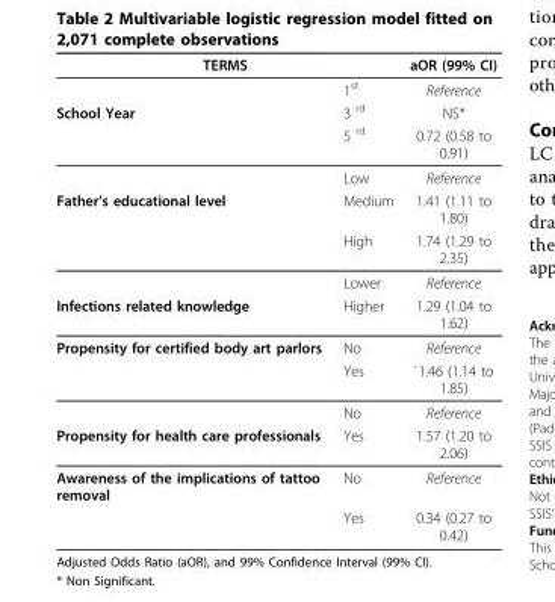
<table><thead><tr><td colspan="2">TERMS</td><td rowspan="2">aOR (99% CI) Reference</td></tr><tr><td></td><td>1<sup>st</sup></td></tr></thead><tbody><tr><td rowspan="3">School Year</td><td>3 <sup>rd</sup></td><td>NS*</td></tr><tr><td>5 <sup>rd</sup></td><td>0.72 (0.58 to 0.91)</td></tr><tr><td>Low</td><td>Reference</td></tr><tr><td rowspan="3">Father’s educational level</td><td>Medium</td><td>1.41 (1.11 to 1.80)</td></tr><tr><td>High</td><td>1.74 (1.29 to 2.35)</td></tr><tr><td>Lower</td><td>Reference</td></tr><tr><td>Infections related knowledge</td><td>Higher</td><td>1.29 (1.04 to 1.62)</td></tr><tr><td rowspan="3">Propensity for certified body art parlors</td><td>No</td><td>Reference</td></tr><tr><td>Yes</td><td>`1.46 (1.14 to 1.85)</td></tr><tr><td>No</td><td>Reference</td></tr><tr><td>Propensity for health care professionals</td><td>Yes</td><td>1.57 (1.20 to 2.06)</td></tr><tr><td rowspan="2">Awareness of the implications of tattoo removal</td><td>No</td><td>Reference</td></tr><tr><td>Yes</td><td>0.34 (0.27 to 0.42)</td></tr></tbody></table>